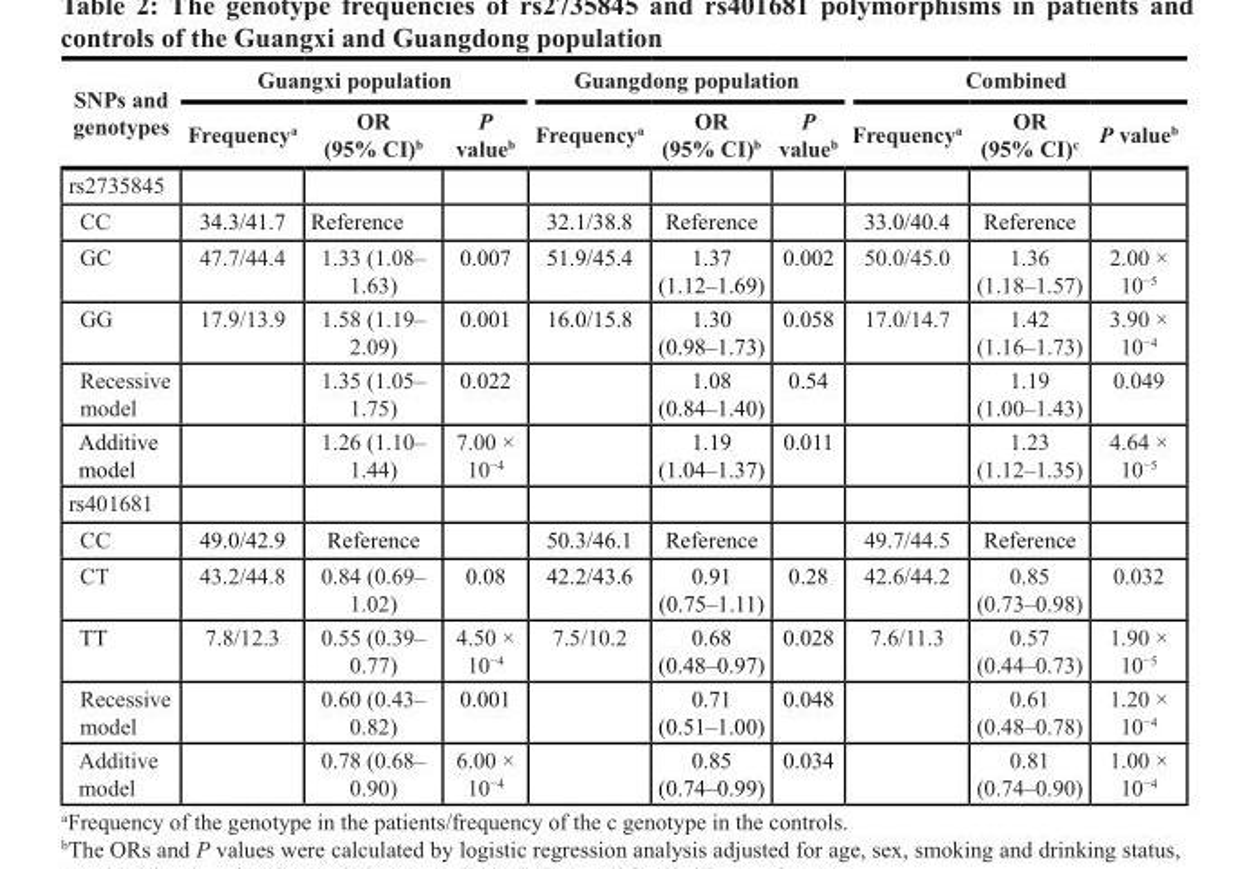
<table><thead><tr><td rowspan="2">SNPs and genotypes</td><td colspan="3">Guangxi population</td><td colspan="3">Guangdong population</td><td colspan="3">Combined</td></tr><tr><td>Frequency<sup>a</sup></td><td>OR (95% CI)<sup>b</sup></td><td>P value<sup>b</sup></td><td>Frequency<sup>a</sup></td><td>OR (95% CI)<sup>b</sup></td><td>P value<sup>b</sup></td><td>Frequency<sup>a</sup></td><td>OR (95% CI)<sup>c</sup></td><td>P value<sup>b</sup></td></tr></thead><tbody><tr><td colspan="10">rs2735845</td></tr><tr><td>CC</td><td>34.3/41.7</td><td>Reference</td><td></td><td>32.1/38.8</td><td>Reference</td><td></td><td>33.0/40.4</td><td>Reference</td><td></td></tr><tr><td>GC</td><td>47.7/44.4</td><td>1.33 (1.08– 1.63)</td><td>0.007</td><td>51.9/45.4</td><td>1.37 (1.12–1.69)</td><td>0.002</td><td>50.0/45.0</td><td>1.36 (1.18–1.57)</td><td>2.00 × 10<sup>−5</sup></td></tr><tr><td>GG</td><td>17.9/13.9</td><td>1.58 (1.19– 2.09)</td><td>0.001</td><td>16.0/15.8</td><td>1.30 (0.98–1.73)</td><td>0.058</td><td>17.0/14.7</td><td>1.42 (1.16–1.73)</td><td>3.90 × 10<sup>−4</sup></td></tr><tr><td>Recessive model</td><td></td><td>1.35 (1.05– 1.75)</td><td>0.022</td><td></td><td>1.08 (0.84–1.40)</td><td>0.54</td><td></td><td>1.19 (1.00–1.43)</td><td>0.049</td></tr><tr><td>Additive model</td><td></td><td>1.26 (1.10– 1.44)</td><td>7.00 × 10<sup>−4</sup></td><td></td><td>1.19 (1.04–1.37)</td><td>0.011</td><td></td><td>1.23 (1.12–1.35)</td><td>4.64 × 10<sup>−5</sup></td></tr><tr><td colspan="10">rs401681</td></tr><tr><td>CC</td><td>49.0/42.9</td><td>Reference</td><td></td><td>50.3/46.1</td><td>Reference</td><td></td><td>49.7/44.5</td><td>Reference</td><td></td></tr><tr><td>CT</td><td>43.2/44.8</td><td>0.84 (0.69– 1.02)</td><td>0.08</td><td>42.2/43.6</td><td>0.91 (0.75–1.11)</td><td>0.28</td><td>42.6/44.2</td><td>0.85 (0.73–0.98)</td><td>0.032</td></tr><tr><td>TT</td><td>7.8/12.3</td><td>0.55 (0.39– 0.77)</td><td>4.50 × 10<sup>−4</sup></td><td>7.5/10.2</td><td>0.68 (0.48–0.97)</td><td>0.028</td><td>7.6/11.3</td><td>0.57 (0.44–0.73)</td><td>1.90 × 10<sup>−5</sup></td></tr><tr><td>Recessive model</td><td></td><td>0.60 (0.43– 0.82)</td><td>0.001</td><td></td><td>0.71 (0.51–1.00)</td><td>0.048</td><td></td><td>0.61 (0.48–0.78)</td><td>1.20 × 10<sup>−4</sup></td></tr><tr><td>Additive model</td><td></td><td>0.78 (0.68– 0.90)</td><td>6.00 × 10<sup>−4</sup></td><td></td><td>0.85 (0.74–0.99)</td><td>0.034</td><td></td><td>0.81 (0.74–0.90)</td><td>1.00 × 10<sup>−4</sup></td></tr></tbody></table>